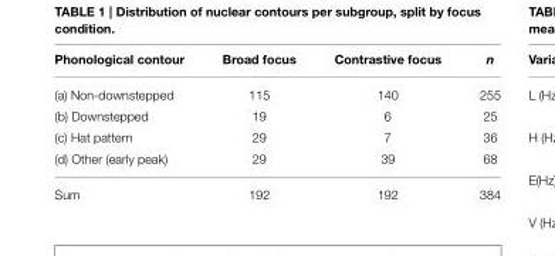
<table><thead><tr><td>Phonological contour</td><td>Broad focus</td><td>Contrastive focus</td><td>n</td></tr></thead><tbody><tr><td>(a) Non-downstepped</td><td>115</td><td>140</td><td>255</td></tr><tr><td>(b) Downstepped</td><td>19</td><td>6</td><td>25</td></tr><tr><td>(c) Hat pattern</td><td>29</td><td>7</td><td>36</td></tr><tr><td>(d) Other (early peak)</td><td>29</td><td>39</td><td>68</td></tr><tr><td>Sum</td><td>192</td><td>192</td><td>384</td></tr></tbody></table>